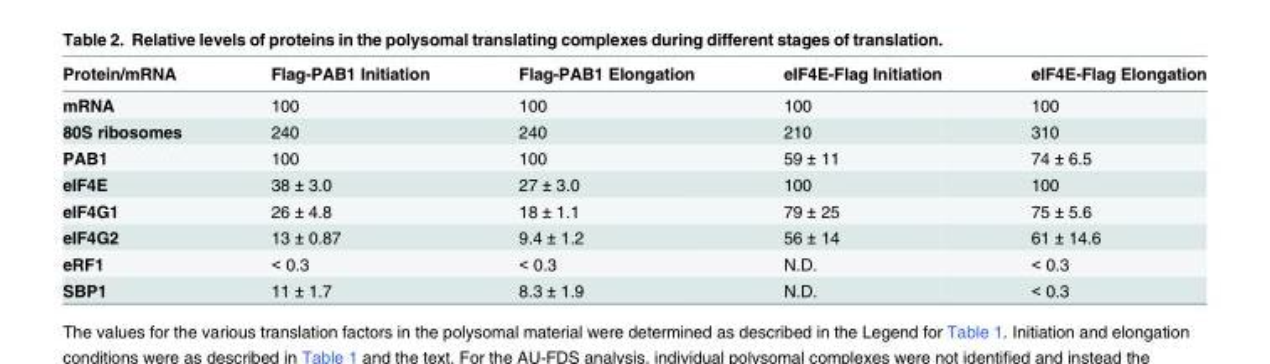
<table><thead><tr><td>Protein/mRNA</td><td>Flag-PAB1 Initiation</td><td>Flag-PAB1 Elongation</td><td>eIF4E-Flag Initiation</td><td>eIF4E-Flag Elongation</td></tr></thead><tbody><tr><td>mRNA</td><td>100</td><td>100</td><td>100</td><td>100</td></tr><tr><td>80S ribosomes</td><td>240</td><td>240</td><td>210</td><td>310</td></tr><tr><td>PAB1</td><td>100</td><td>100</td><td>59 ± 11</td><td>74 ± 6.5</td></tr><tr><td>eIF4E</td><td>38 ± 3.0</td><td>27 ± 3.0</td><td>100</td><td>100</td></tr><tr><td>eIF4G1</td><td>26 ± 4.8</td><td>18 ± 1.1</td><td>79 ± 25</td><td>75 ± 5.6</td></tr><tr><td>eIF4G2</td><td>13 ± 0.87</td><td>9.4 ± 1.2</td><td>56 ± 14</td><td>61 ± 14.6</td></tr><tr><td>eRF1</td><td>&lt; 0.3</td><td>&lt; 0.3</td><td>N.D.</td><td>&lt; 0.3</td></tr><tr><td>SBP1</td><td>11 ± 1.7</td><td>8.3 ± 1.9</td><td>N.D.</td><td>&lt; 0.3</td></tr></tbody></table>